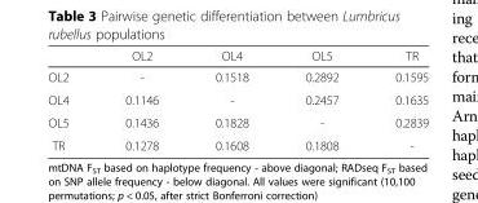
<table><thead><tr><td></td><td>OL2</td><td>OL4</td><td>OL5</td><td>TR</td></tr></thead><tbody><tr><td>OL2</td><td>-</td><td>0.1518</td><td>0.2892</td><td>0.1595</td></tr><tr><td>OL4</td><td>0.1146</td><td>-</td><td>0.2457</td><td>0.1635</td></tr><tr><td>OL5</td><td>0.1436</td><td>0.1828</td><td>-</td><td>0.2839</td></tr><tr><td>TR</td><td>0.1278</td><td>0.1608</td><td>0.1808</td><td>-</td></tr></tbody></table>